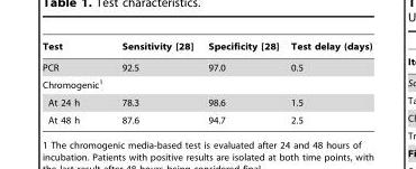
<table><thead><tr><td>Test</td><td>Sensitivity [28]</td><td>Specificity [28]</td><td>Test delay (days)</td></tr></thead><tbody><tr><td>PCR</td><td>92.5</td><td>97.0</td><td>0.5</td></tr><tr><td colspan="4">Chromogenic<sup>1</sup></td></tr><tr><td>At 24 h</td><td>78.3</td><td>98.6</td><td>1.5</td></tr><tr><td>At 48 h</td><td>87.6</td><td>94.7</td><td>2.5</td></tr></tbody></table>